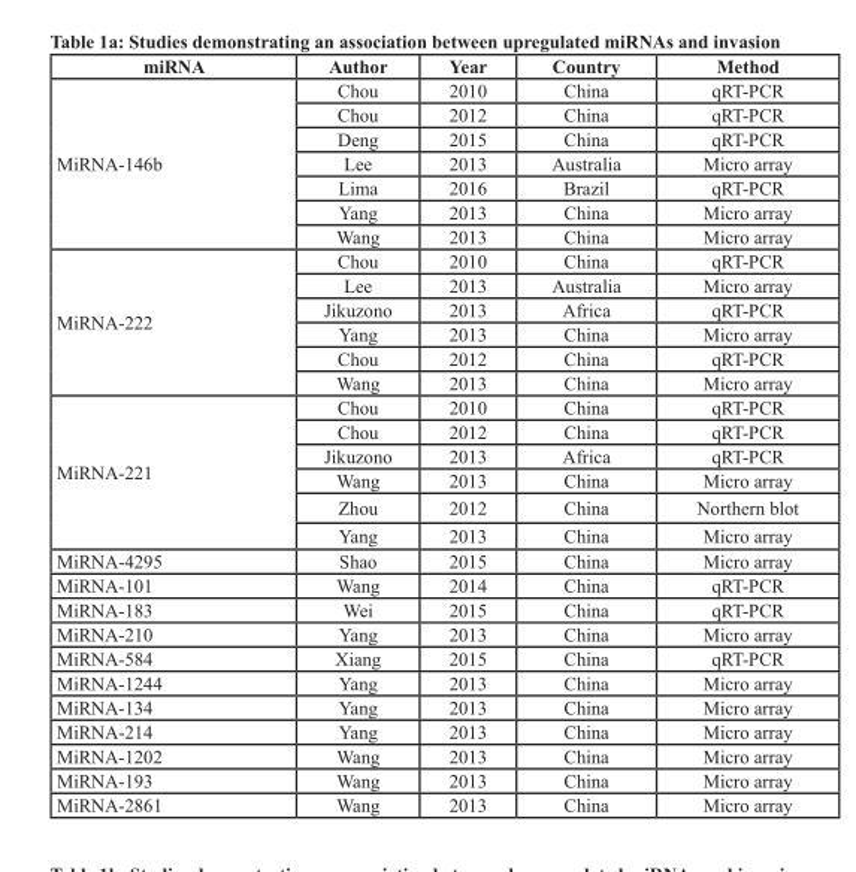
<table><thead><tr><td>miRNA</td><td>Author</td><td>Year</td><td>Country</td><td>Method</td></tr></thead><tbody><tr><td rowspan="7">MiRNA-146b</td><td>Chou</td><td>2010</td><td>China</td><td>qRT-PCR</td></tr><tr><td>Chou</td><td>2012</td><td>China</td><td>qRT-PCR</td></tr><tr><td>Deng</td><td>2015</td><td>China</td><td>qRT-PCR</td></tr><tr><td>Lee</td><td>2013</td><td>Australia</td><td>Micro array</td></tr><tr><td>Lima</td><td>2016</td><td>Brazil</td><td>qRT-PCR</td></tr><tr><td>Yang</td><td>2013</td><td>China</td><td>Micro array</td></tr><tr><td>Wang</td><td>2013</td><td>China</td><td>Micro array</td></tr><tr><td rowspan="6">MiRNA-222</td><td>Chou</td><td>2010</td><td>China</td><td>qRT-PCR</td></tr><tr><td>Lee</td><td>2013</td><td>Australia</td><td>Micro array</td></tr><tr><td>Jikuzono</td><td>2013</td><td>Africa</td><td>qRT-PCR</td></tr><tr><td>Yang</td><td>2013</td><td>China</td><td>Micro array</td></tr><tr><td>Chou</td><td>2012</td><td>China</td><td>qRT-PCR</td></tr><tr><td>Wang</td><td>2013</td><td>China</td><td>Micro array</td></tr><tr><td rowspan="6">MiRNA-221</td><td>Chou</td><td>2010</td><td>China</td><td>qRT-PCR</td></tr><tr><td>Chou</td><td>2012</td><td>China</td><td>qRT-PCR</td></tr><tr><td>Jikuzono</td><td>2013</td><td>Africa</td><td>qRT-PCR</td></tr><tr><td>Wang</td><td>2013</td><td>China</td><td>Micro array</td></tr><tr><td>Zhou</td><td>2012</td><td>China</td><td>Northern blot</td></tr><tr><td>Yang</td><td>2013</td><td>China</td><td>Micro array</td></tr><tr><td>MiRNA-4295</td><td>Shao</td><td>2015</td><td>China</td><td>Micro array</td></tr><tr><td>MiRNA-101</td><td>Wang</td><td>2014</td><td>China</td><td>qRT-PCR</td></tr><tr><td>MiRNA-183</td><td>Wei</td><td>2015</td><td>China</td><td>qRT-PCR</td></tr><tr><td>MiRNA-210</td><td>Yang</td><td>2013</td><td>China</td><td>Micro array</td></tr><tr><td>MiRNA-584</td><td>Xiang</td><td>2015</td><td>China</td><td>qRT-PCR</td></tr><tr><td>MiRNA-1244</td><td>Yang</td><td>2013</td><td>China</td><td>Micro array</td></tr><tr><td>MiRNA-134</td><td>Yang</td><td>2013</td><td>China</td><td>Micro array</td></tr><tr><td>MiRNA-214</td><td>Yang</td><td>2013</td><td>China</td><td>Micro array</td></tr><tr><td>MiRNA-1202</td><td>Wang</td><td>2013</td><td>China</td><td>Micro array</td></tr><tr><td>MiRNA-193</td><td>Wang</td><td>2013</td><td>China</td><td>Micro array</td></tr><tr><td>MiRNA-2861</td><td>Wang</td><td>2013</td><td>China</td><td>Micro array</td></tr></tbody></table>